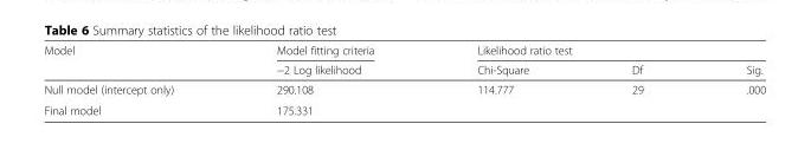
<table><thead><tr><td rowspan="2">Model</td><td rowspan="2">Model fitting criteria −2 Log likelihood</td><td colspan="3">Likelihood ratio test</td></tr><tr><td>Chi-Square</td><td>Df</td><td>Sig.</td></tr></thead><tbody><tr><td>Null model (intercept only)</td><td>290.108</td><td rowspan="2">114.777</td><td rowspan="2">29</td><td rowspan="2">.000</td></tr><tr><td>Final model</td><td>175.331</td></tr></tbody></table>